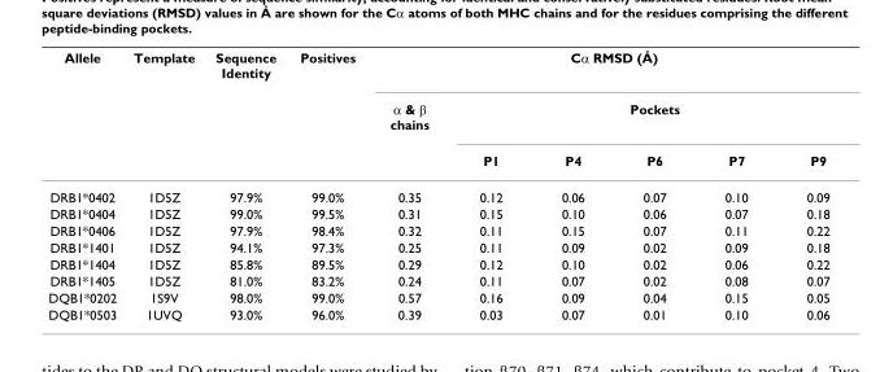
<table><thead><tr><td rowspan="3">Allele</td><td rowspan="3">Template</td><td rowspan="3">Sequence Identity</td><td rowspan="3">Positives</td><td colspan="6">Cα RMSD (Å)</td></tr><tr><td rowspan="2">α &amp; β chains</td><td colspan="5">Pockets</td></tr><tr><td>P1</td><td>P4</td><td>P6</td><td>P7</td><td>P9</td></tr></thead><tbody><tr><td>DRB1*0402</td><td>1D5Z</td><td>97.9%</td><td>99.0%</td><td>0.35</td><td>0.12</td><td>0.06</td><td>0.07</td><td>0.10</td><td>0.09</td></tr><tr><td>DRB1*0404</td><td>1D5Z</td><td>99.0%</td><td>99.5%</td><td>0.31</td><td>0.15</td><td>0.10</td><td>0.06</td><td>0.07</td><td>0.18</td></tr><tr><td>DRB1*0406</td><td>1D5Z</td><td>97.9%</td><td>98.4%</td><td>0.32</td><td>0.11</td><td>0.15</td><td>0.07</td><td>0.11</td><td>0.22</td></tr><tr><td>DRB1*1401</td><td>1D5Z</td><td>94.1%</td><td>97.3%</td><td>0.25</td><td>0.11</td><td>0.09</td><td>0.02</td><td>0.09</td><td>0.18</td></tr><tr><td>DRB1*1404</td><td>1D5Z</td><td>85.8%</td><td>89.5%</td><td>0.29</td><td>0.12</td><td>0.10</td><td>0.02</td><td>0.06</td><td>0.22</td></tr><tr><td>DRB1*1405</td><td>1D5Z</td><td>81.0%</td><td>83.2%</td><td>0.24</td><td>0.11</td><td>0.07</td><td>0.02</td><td>0.08</td><td>0.07</td></tr><tr><td>DQB1*0202</td><td>1S9V</td><td>98.0%</td><td>99.0%</td><td>0.57</td><td>0.16</td><td>0.09</td><td>0.04</td><td>0.15</td><td>0.05</td></tr><tr><td>DQB1*0503</td><td>1UVQ</td><td>93.0%</td><td>96.0%</td><td>0.39</td><td>0.03</td><td>0.07</td><td>0.01</td><td>0.10</td><td>0.06</td></tr></tbody></table>